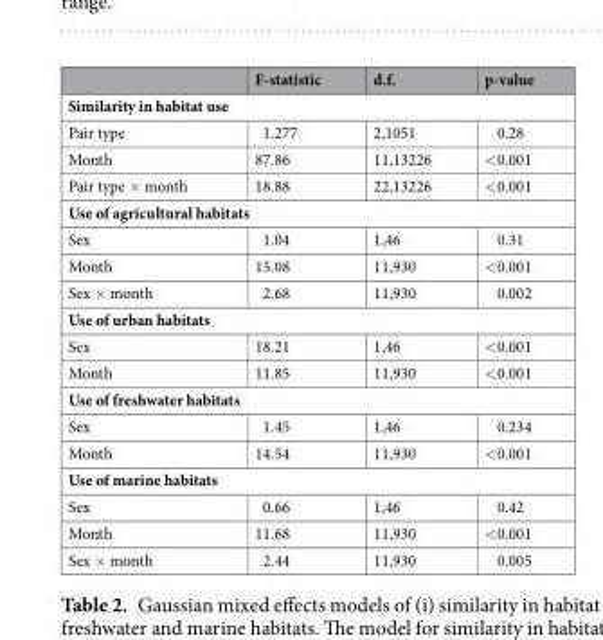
<table><thead><tr><td></td><td>F-statistic</td><td>d.f.</td><td>p-value</td></tr></thead><tbody><tr><td colspan="4">Similarity in habitat use</td></tr><tr><td>Pair type</td><td>1.277</td><td>2,1051</td><td>0.28</td></tr><tr><td>Month</td><td>87.86</td><td>11,13226</td><td>&lt;0.001</td></tr><tr><td>Pair type × month</td><td>18.88</td><td>22,13226</td><td>&lt;0.001</td></tr><tr><td colspan="4">Use of agricultural habitats</td></tr><tr><td>Sex</td><td>1.04</td><td>1,46</td><td>0.31</td></tr><tr><td>Month</td><td>15.08</td><td>11,930</td><td>&lt;0.001</td></tr><tr><td>Sex × month</td><td>2.68</td><td>11,930</td><td>0.002</td></tr><tr><td colspan="4">Use of urban habitats</td></tr><tr><td>Sex</td><td>18.21</td><td>1,46</td><td>&lt;0.001</td></tr><tr><td>Month</td><td>11.85</td><td>11,930</td><td>&lt;0.001</td></tr><tr><td colspan="4">Use of freshwater habitats</td></tr><tr><td>Sex</td><td>1.45</td><td>1,46</td><td>0.234</td></tr><tr><td>Month</td><td>14.54</td><td>11,930</td><td>&lt;0.001</td></tr><tr><td colspan="4">Use of marine habitats</td></tr><tr><td>Sex</td><td>0.66</td><td>1,46</td><td>0.42</td></tr><tr><td>Month</td><td>11.68</td><td>11,930</td><td>&lt;0.001</td></tr><tr><td>Sex × month</td><td>2.44</td><td>11,930</td><td>0.005</td></tr></tbody></table>